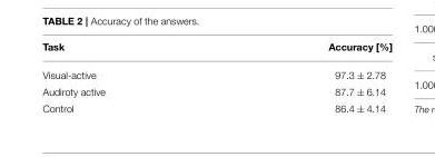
<table><thead><tr><td>Task</td><td>Accuracy [%]</td></tr></thead><tbody><tr><td>Visual-active</td><td>97.3 ± 2.78</td></tr><tr><td>Audiroty active</td><td>87.7 ± 6.14</td></tr><tr><td>Control</td><td>86.4 ± 4.14</td></tr></tbody></table>